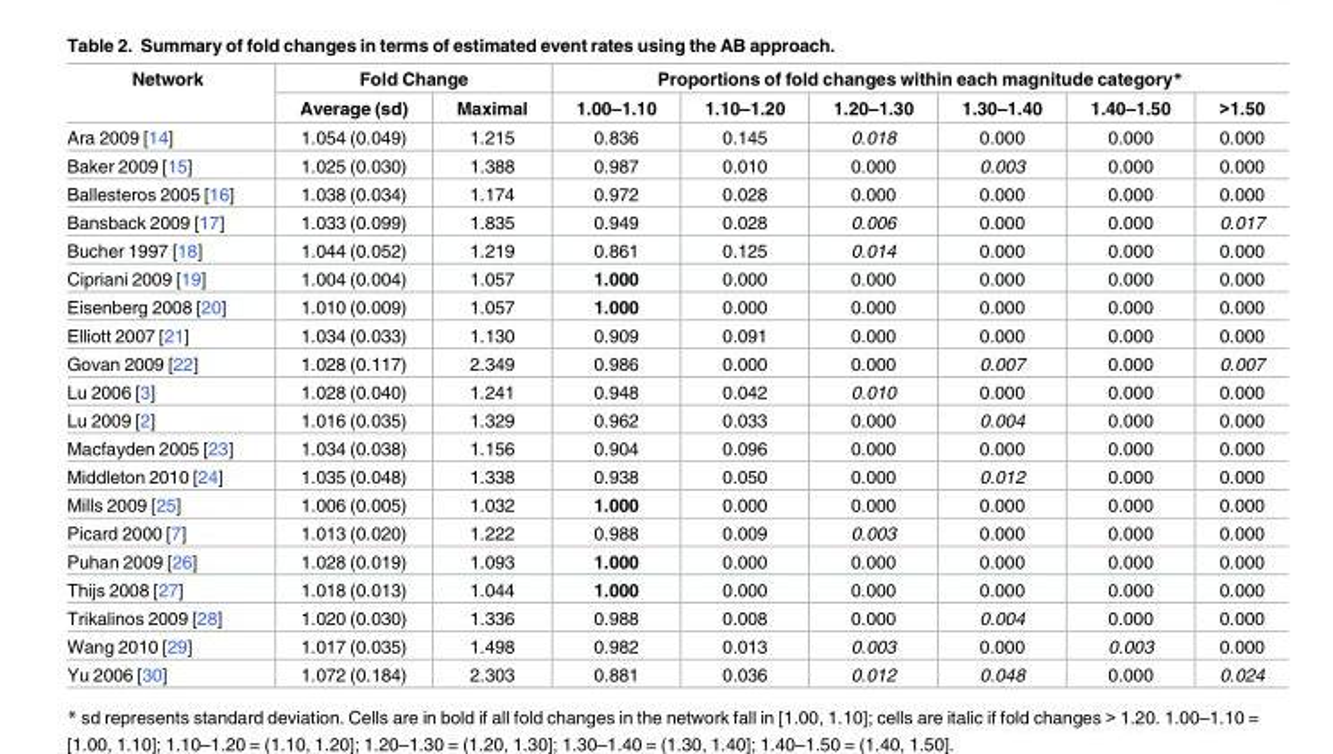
<table><thead><tr><td rowspan="2">Network</td><td colspan="2">Fold Change</td><td colspan="6">Proportions of fold changes within each magnitude category*</td></tr><tr><td>Average (sd)</td><td>Maximal</td><td>1.00–1.10</td><td>1.10–1.20</td><td>1.20–1.30</td><td>1.30–1.40</td><td>1.40–1.50</td><td>&gt;1.50</td></tr></thead><tbody><tr><td>Ara 2009 [14]</td><td>1.054 (0.049)</td><td>1.215</td><td>0.836</td><td>0.145</td><td>0.018</td><td>0.000</td><td>0.000</td><td>0.000</td></tr><tr><td>Baker 2009 [15]</td><td>1.025 (0.030)</td><td>1.388</td><td>0.987</td><td>0.010</td><td>0.000</td><td>0.003</td><td>0.000</td><td>0.000</td></tr><tr><td>Ballesteros 2005 [16]</td><td>1.038 (0.034)</td><td>1.174</td><td>0.972</td><td>0.028</td><td>0.000</td><td>0.000</td><td>0.000</td><td>0.000</td></tr><tr><td>Bansback 2009 [17]</td><td>1.033 (0.099)</td><td>1.835</td><td>0.949</td><td>0.028</td><td>0.006</td><td>0.000</td><td>0.000</td><td>0.017</td></tr><tr><td>Bucher 1997 [18]</td><td>1.044 (0.052)</td><td>1.219</td><td>0.861</td><td>0.125</td><td>0.014</td><td>0.000</td><td>0.000</td><td>0.000</td></tr><tr><td>Cipriani 2009 [19]</td><td>1.004 (0.004)</td><td>1.057</td><td>1.000</td><td>0.000</td><td>0.000</td><td>0.000</td><td>0.000</td><td>0.000</td></tr><tr><td>Eisenberg 2008 [20]</td><td>1.010 (0.009)</td><td>1.057</td><td>1.000</td><td>0.000</td><td>0.000</td><td>0.000</td><td>0.000</td><td>0.000</td></tr><tr><td>Elliott 2007 [21]</td><td>1.034 (0.033)</td><td>1.130</td><td>0.909</td><td>0.091</td><td>0.000</td><td>0.000</td><td>0.000</td><td>0.000</td></tr><tr><td>Govan 2009 [22]</td><td>1.028 (0.117)</td><td>2.349</td><td>0.986</td><td>0.000</td><td>0.000</td><td>0.007</td><td>0.000</td><td>0.007</td></tr><tr><td>Lu 2006 [3]</td><td>1.028 (0.040)</td><td>1.241</td><td>0.948</td><td>0.042</td><td>0.010</td><td>0.000</td><td>0.000</td><td>0.000</td></tr><tr><td>Lu 2009 [2]</td><td>1.016 (0.035)</td><td>1.329</td><td>0.962</td><td>0.033</td><td>0.000</td><td>0.004</td><td>0.000</td><td>0.000</td></tr><tr><td>Macfayden 2005 [23]</td><td>1.034 (0.038)</td><td>1.156</td><td>0.904</td><td>0.096</td><td>0.000</td><td>0.000</td><td>0.000</td><td>0.000</td></tr><tr><td>Middleton 2010 [24]</td><td>1.035 (0.048)</td><td>1.338</td><td>0.938</td><td>0.050</td><td>0.000</td><td>0.012</td><td>0.000</td><td>0.000</td></tr><tr><td>Mills 2009 [25]</td><td>1.006 (0.005)</td><td>1.032</td><td>1.000</td><td>0.000</td><td>0.000</td><td>0.000</td><td>0.000</td><td>0.000</td></tr><tr><td>Picard 2000 [7]</td><td>1.013 (0.020)</td><td>1.222</td><td>0.988</td><td>0.009</td><td>0.003</td><td>0.000</td><td>0.000</td><td>0.000</td></tr><tr><td>Puhan 2009 [26]</td><td>1.028 (0.019)</td><td>1.093</td><td>1.000</td><td>0.000</td><td>0.000</td><td>0.000</td><td>0.000</td><td>0.000</td></tr><tr><td>Thijs 2008 [27]</td><td>1.018 (0.013)</td><td>1.044</td><td>1.000</td><td>0.000</td><td>0.000</td><td>0.000</td><td>0.000</td><td>0.000</td></tr><tr><td>Trikalinos 2009 [28]</td><td>1.020 (0.030)</td><td>1.336</td><td>0.988</td><td>0.008</td><td>0.000</td><td>0.004</td><td>0.000</td><td>0.000</td></tr><tr><td>Wang 2010 [29]</td><td>1.017 (0.035)</td><td>1.498</td><td>0.982</td><td>0.013</td><td>0.003</td><td>0.000</td><td>0.003</td><td>0.000</td></tr><tr><td>Yu 2006 [30]</td><td>1.072 (0.184)</td><td>2.303</td><td>0.881</td><td>0.036</td><td>0.012</td><td>0.048</td><td>0.000</td><td>0.024</td></tr></tbody></table>